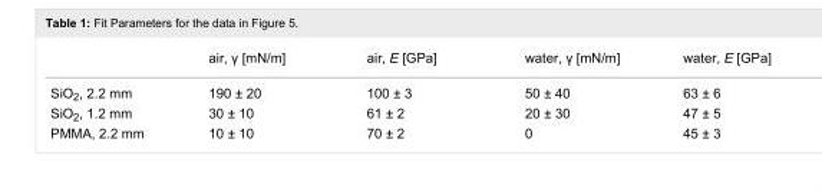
<table><thead><tr><td></td><td>air, γ [mN/m]</td><td>air, E [GPa]</td><td>water, γ [mN/m]</td><td>water, E [GPa]</td></tr></thead><tbody><tr><td>SiO<sub>2</sub>, 2.2 mm</td><td>190 ± 20</td><td>100 ± 3</td><td>50 ± 40</td><td>63 ± 6</td></tr><tr><td>SiO<sub>2</sub>, 1.2 mm</td><td>30 ± 10</td><td>61 ± 2</td><td>20 ± 30</td><td>47 ± 5</td></tr><tr><td>PMMA, 2.2 mm</td><td>10 ± 10</td><td>70 ± 2</td><td>0</td><td>45 ± 3</td></tr></tbody></table>